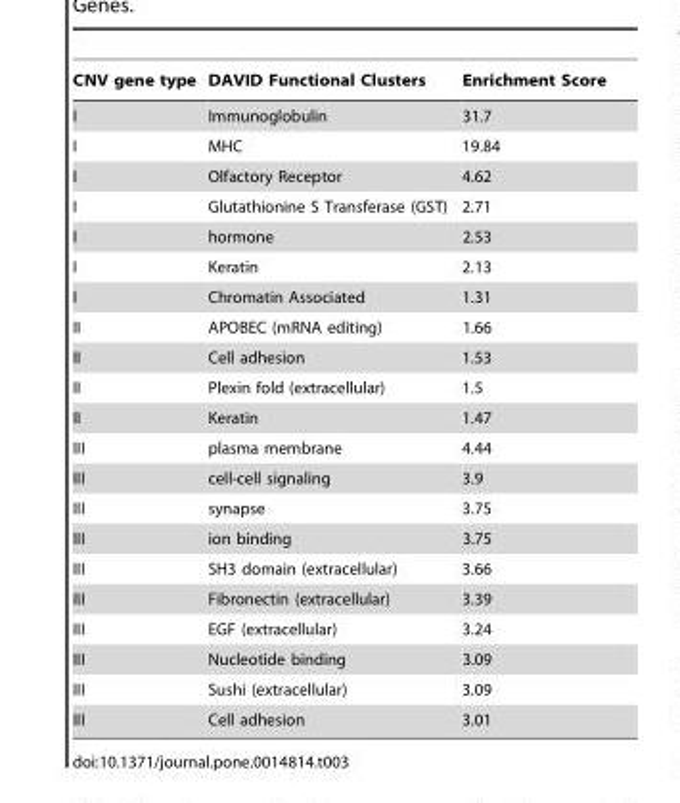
<table><thead><tr><td>CNV gene type</td><td>DAVID Functional Clusters</td><td>Enrichment Score</td></tr></thead><tbody><tr><td>I</td><td>Immunoglobulin</td><td>31.7</td></tr><tr><td>I</td><td>MHC</td><td>19.84</td></tr><tr><td>I</td><td>Olfactory Receptor</td><td>4.62</td></tr><tr><td>I</td><td>Glutathionine S Transferase (GST)</td><td>2.71</td></tr><tr><td>I</td><td>hormone</td><td>2.53</td></tr><tr><td>I</td><td>Keratin</td><td>2.13</td></tr><tr><td>I</td><td>Chromatin Associated</td><td>1.31</td></tr><tr><td>II</td><td>APOBEC (mRNA editing)</td><td>1.66</td></tr><tr><td>II</td><td>Cell adhesion</td><td>1.53</td></tr><tr><td>II</td><td>Plexin fold (extracellular)</td><td>1.5</td></tr><tr><td>II</td><td>Keratin</td><td>1.47</td></tr><tr><td>III</td><td>plasma membrane</td><td>4.44</td></tr><tr><td>III</td><td>cell-cell signaling</td><td>3.9</td></tr><tr><td>III</td><td>synapse</td><td>3.75</td></tr><tr><td>III</td><td>ion binding</td><td>3.75</td></tr><tr><td>III</td><td>SH3 domain (extracellular)</td><td>3.66</td></tr><tr><td>III</td><td>Fibronectin (extracellular)</td><td>3.39</td></tr><tr><td>III</td><td>EGF (extracellular)</td><td>3.24</td></tr><tr><td>III</td><td>Nucleotide binding</td><td>3.09</td></tr><tr><td>III</td><td>Sushi (extracellular)</td><td>3.09</td></tr><tr><td>III</td><td>Cell adhesion</td><td>3.01</td></tr></tbody></table>